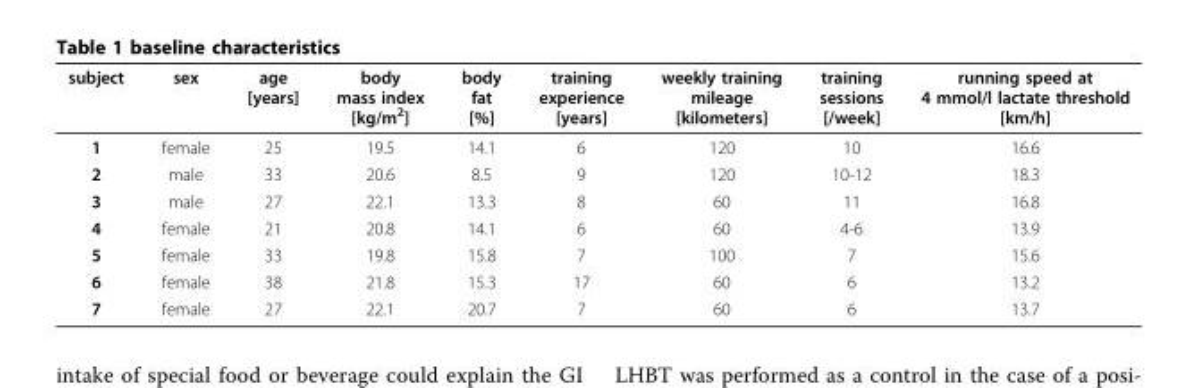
<table><thead><tr><td>subject</td><td>sex</td><td>age [years]</td><td>body mass index [kg/m<sup>2</sup>]</td><td>body fat [%]</td><td>training experience [years]</td><td>weekly training mileage [kilometers]</td><td>training sessions [/week]</td><td>running speed at 4 mmol/l lactate threshold [km/h]</td></tr></thead><tbody><tr><td>1</td><td>female</td><td>25</td><td>19.5</td><td>14.1</td><td>6</td><td>120</td><td>10</td><td>16.6</td></tr><tr><td>2</td><td>male</td><td>33</td><td>20.6</td><td>8.5</td><td>9</td><td>120</td><td>10-12</td><td>18.3</td></tr><tr><td>3</td><td>male</td><td>27</td><td>22.1</td><td>13.3</td><td>8</td><td>60</td><td>11</td><td>16.8</td></tr><tr><td>4</td><td>female</td><td>21</td><td>20.8</td><td>14.1</td><td>6</td><td>60</td><td>4-6</td><td>13.9</td></tr><tr><td>5</td><td>female</td><td>33</td><td>19.8</td><td>15.8</td><td>7</td><td>100</td><td>7</td><td>15.6</td></tr><tr><td>6</td><td>female</td><td>38</td><td>21.8</td><td>15.3</td><td>17</td><td>60</td><td>6</td><td>13.2</td></tr><tr><td>7</td><td>female</td><td>27</td><td>22.1</td><td>20.7</td><td>7</td><td>60</td><td>6</td><td>13.7</td></tr></tbody></table>